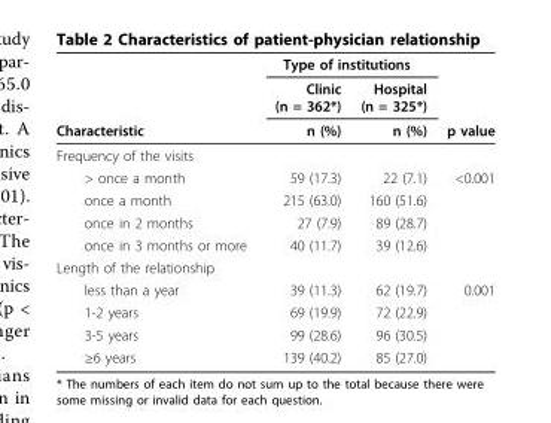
<table><thead><tr><td rowspan="3">Characteristic</td><td colspan="2">Type of institutions</td><td rowspan="3">p value</td></tr><tr><td rowspan="2">Clinic (n = 362*) n (%)</td><td rowspan="2">Hospital (n = 325*) n (%)</td></tr><tr></tr></thead><tbody><tr><td colspan="4">Frequency of the visits</td></tr><tr><td>&gt; once a month</td><td>59 (17.3)</td><td>22 (7.1)</td><td>&lt;0.001</td></tr><tr><td>once a month</td><td>215 (63.0)</td><td>160 (51.6)</td><td></td></tr><tr><td>once in 2 months</td><td>27 (7.9)</td><td>89 (28.7)</td><td></td></tr><tr><td>once in 3 months or more</td><td>40 (11.7)</td><td>39 (12.6)</td><td></td></tr><tr><td colspan="4">Length of the relationship</td></tr><tr><td>less than a year</td><td>39 (11.3)</td><td>62 (19.7)</td><td>0.001</td></tr><tr><td>1-2 years</td><td>69 (19.9)</td><td>72 (22.9)</td><td></td></tr><tr><td>3-5 years</td><td>99 (28.6)</td><td>96 (30.5)</td><td></td></tr><tr><td>≥6 years</td><td>139 (40.2)</td><td>85 (27.0)</td><td></td></tr></tbody></table>